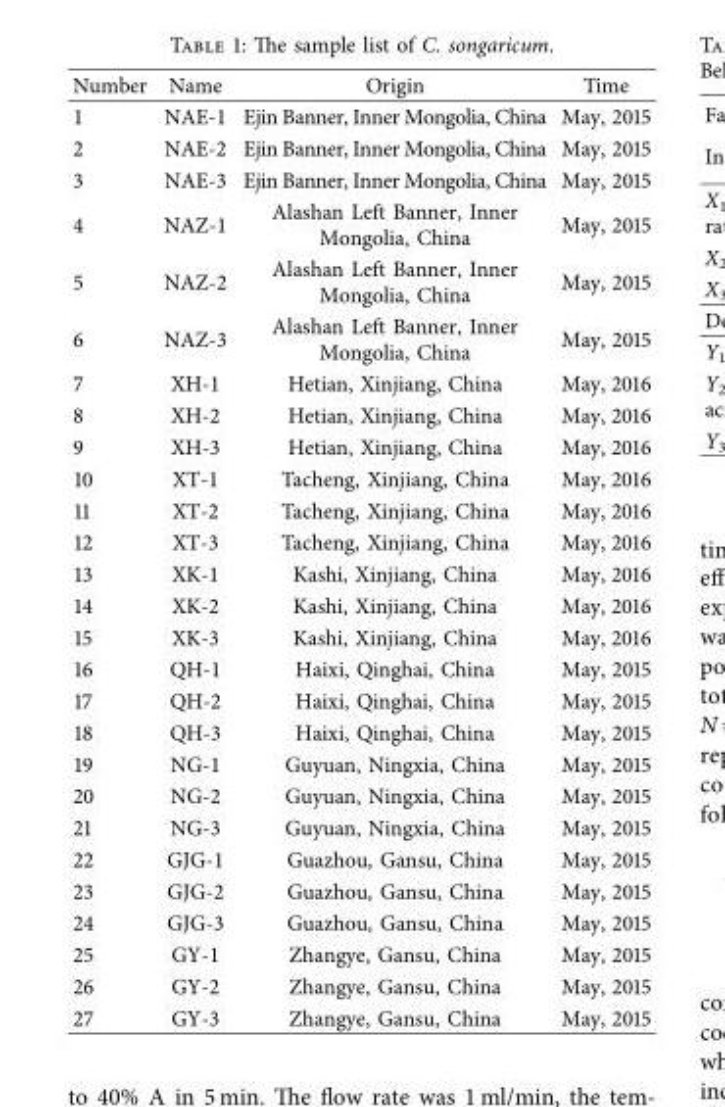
<table><thead><tr><td>Number</td><td>Name</td><td>Origin</td><td>Time</td></tr></thead><tbody><tr><td>1</td><td>NAE-1</td><td>Ejin Banner, Inner Mongolia, China</td><td>May, 2015</td></tr><tr><td>2</td><td>NAE-2</td><td>Ejin Banner, Inner Mongolia, China</td><td>May, 2015</td></tr><tr><td>3</td><td>NAE-3</td><td>Ejin Banner, Inner Mongolia, China</td><td>May, 2015</td></tr><tr><td>4</td><td>NAZ-1</td><td>Alashan Left Banner, Inner Mongolia, China</td><td>May, 2015</td></tr><tr><td>5</td><td>NAZ-2</td><td>Alashan Left Banner, Inner Mongolia, China</td><td>May, 2015</td></tr><tr><td>6</td><td>NAZ-3</td><td>Alashan Left Banner, Inner Mongolia, China</td><td>May, 2015</td></tr><tr><td>7</td><td>XH-1</td><td>Hetian, Xinjiang, China</td><td>May, 2016</td></tr><tr><td>8</td><td>XH-2</td><td>Hetian, Xinjiang, China</td><td>May, 2016</td></tr><tr><td>9</td><td>XH-3</td><td>Hetian, Xinjiang, China</td><td>May, 2016</td></tr><tr><td>10</td><td>XT-1</td><td>Tacheng, Xinjiang, China</td><td>May, 2016</td></tr><tr><td>11</td><td>XT-2</td><td>Tacheng, Xinjiang, China</td><td>May, 2016</td></tr><tr><td>12</td><td>XT-3</td><td>Tacheng, Xinjiang, China</td><td>May, 2016</td></tr><tr><td>13</td><td>XK-1</td><td>Kashi, Xinjiang, China</td><td>May, 2016</td></tr><tr><td>14</td><td>XK-2</td><td>Kashi, Xinjiang, China</td><td>May, 2016</td></tr><tr><td>15</td><td>XK-3</td><td>Kashi, Xinjiang, China</td><td>May, 2016</td></tr><tr><td>16</td><td>QH-1</td><td>Haixi, Qinghai, China</td><td>May, 2015</td></tr><tr><td>17</td><td>QH-2</td><td>Haixi, Qinghai, China</td><td>May, 2015</td></tr><tr><td>18</td><td>QH-3</td><td>Haixi, Qinghai, China</td><td>May, 2015</td></tr><tr><td>19</td><td>NG-1</td><td>Guyuan, Ningxia, China</td><td>May, 2015</td></tr><tr><td>20</td><td>NG-2</td><td>Guyuan, Ningxia, China</td><td>May, 2015</td></tr><tr><td>21</td><td>NG-3</td><td>Guyuan, Ningxia, China</td><td>May, 2015</td></tr><tr><td>22</td><td>GJG-1</td><td>Guazhou, Gansu, China</td><td>May, 2015</td></tr><tr><td>23</td><td>GJG-2</td><td>Guazhou, Gansu, China</td><td>May, 2015</td></tr><tr><td>24</td><td>GJG-3</td><td>Guazhou, Gansu, China</td><td>May, 2015</td></tr><tr><td>25</td><td>GY-1</td><td>Zhangye, Gansu, China</td><td>May, 2015</td></tr><tr><td>26</td><td>GY-2</td><td>Zhangye, Gansu, China</td><td>May, 2015</td></tr><tr><td>27</td><td>GY-3</td><td>Zhangye, Gansu, China</td><td>May, 2015</td></tr></tbody></table>